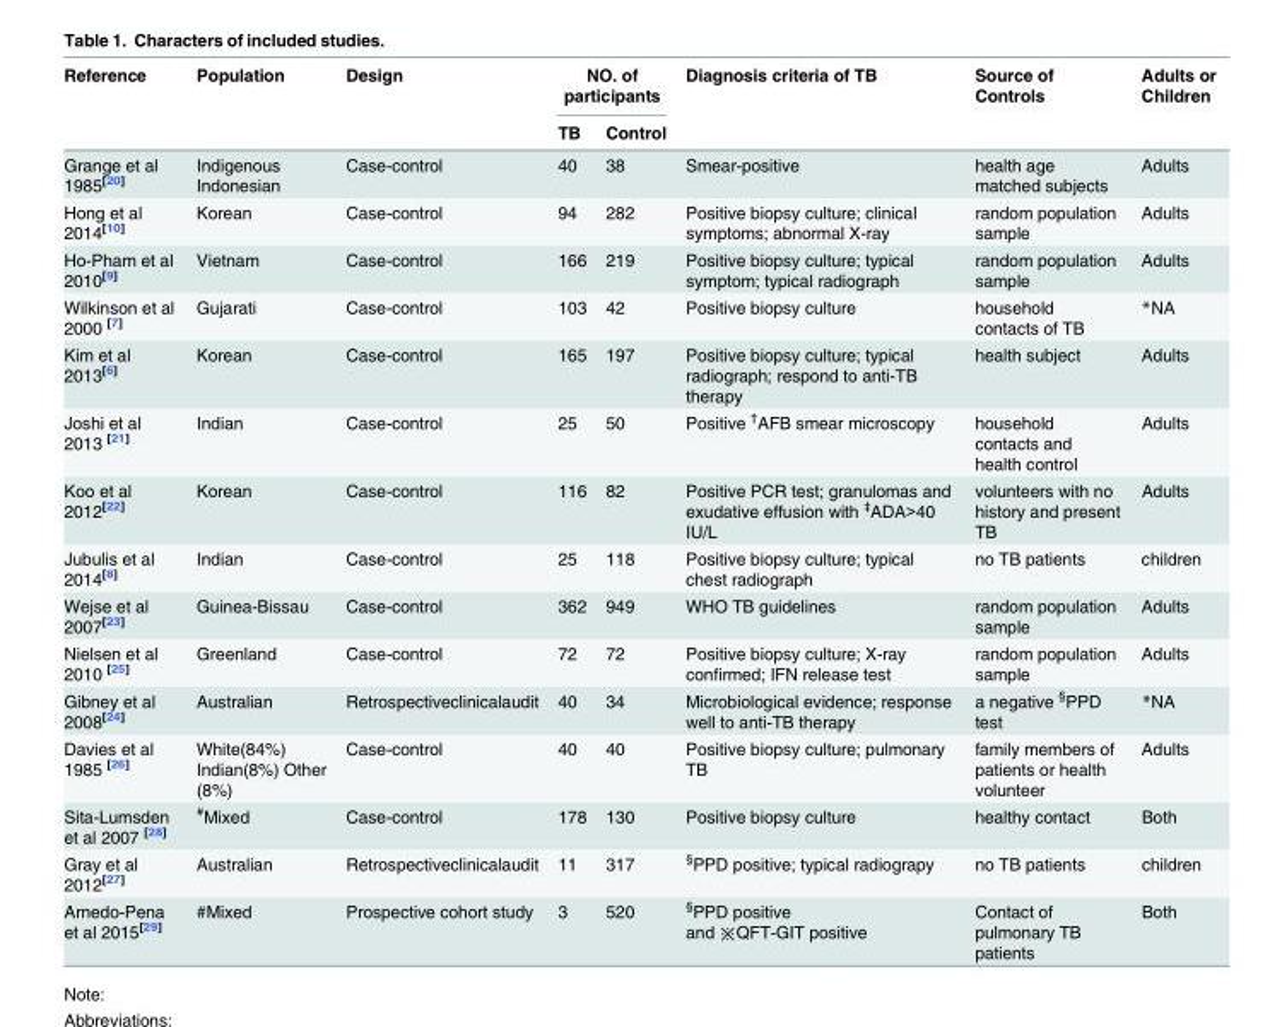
<table><thead><tr><td rowspan="2">Reference</td><td rowspan="2">Population</td><td rowspan="2">Design</td><td colspan="2">NO. of participants</td><td rowspan="2">Diagnosis criteria of TB</td><td rowspan="2">Source of Controls</td><td rowspan="2">Adults or Children</td></tr><tr><td>TB</td><td>Control</td></tr></thead><tbody><tr><td>Grange et al 1985<sup>[20]</sup></td><td>Indigenous Indonesian</td><td>Case-control</td><td>40</td><td>38</td><td>Smear-positive</td><td>health age matched subjects</td><td>Adults</td></tr><tr><td>Hong et al 2014<sup>[10]</sup></td><td>Korean</td><td>Case-control</td><td>94</td><td>282</td><td>Positive biopsy culture; clinical symptoms; abnormal X-ray</td><td>random population sample</td><td>Adults</td></tr><tr><td>Ho-Pham et al 2010<sup>[9]</sup></td><td>Vietnam</td><td>Case-control</td><td>166</td><td>219</td><td>Positive biopsy culture; typical symptom; typical radiograph</td><td>random population sample</td><td>Adults</td></tr><tr><td>Wilkinson et al 2000 <sup>[7]</sup></td><td>Gujarati</td><td>Case-control</td><td>103</td><td>42</td><td>Positive biopsy culture</td><td>household contacts of TB</td><td>*NA</td></tr><tr><td>Kim et al 2013<sup>[6]</sup></td><td>Korean</td><td>Case-control</td><td>165</td><td>197</td><td>Positive biopsy culture; typical radiograph; respond to anti-TB therapy</td><td>health subject</td><td>Adults</td></tr><tr><td>Joshi et al 2013 <sup>[21]</sup></td><td>Indian</td><td>Case-control</td><td>25</td><td>50</td><td>Positive <sup>†</sup>AFB smear microscopy</td><td>household contacts and health control</td><td>Adults</td></tr><tr><td>Koo et al 2012<sup>[22]</sup></td><td>Korean</td><td>Case-control</td><td>116</td><td>82</td><td>Positive PCR test; granulomas and exudative effusion with <sup>‡</sup>ADA&gt;40 IU/L</td><td>volunteers with no history and present TB</td><td>Adults</td></tr><tr><td>Jubulis et al 2014<sup>[8]</sup></td><td>Indian</td><td>Case-control</td><td>25</td><td>118</td><td>Positive biopsy culture; typical chest radiograph</td><td>no TB patients</td><td>children</td></tr><tr><td>Wejse et al 2007<sup>[23]</sup></td><td>Guinea-Bissau</td><td>Case-control</td><td>362</td><td>949</td><td>WHO TB guidelines</td><td>random population sample</td><td>Adults</td></tr><tr><td>Nielsen et al 2010 <sup>[25]</sup></td><td>Greenland</td><td>Case-control</td><td>72</td><td>72</td><td>Positive biopsy culture; X-ray confirmed; IFN release test</td><td>random population sample</td><td>Adults</td></tr><tr><td>Gibney et al 2008<sup>[24]</sup></td><td>Australian</td><td>Retrospectiveclinicalaudit</td><td>40</td><td>34</td><td>Microbiological evidence; response well to anti-TB therapy</td><td>a negative <sup>§</sup>PPD test</td><td>*NA</td></tr><tr><td>Davies et al 1985 <sup>[26]</sup></td><td>White(84%) Indian(8%) Other (8%)</td><td>Case-control</td><td>40</td><td>40</td><td>Positive biopsy culture; pulmonary TB</td><td>family members of patients or health volunteer</td><td>Adults</td></tr><tr><td>Sita-Lumsden et al 2007 <sup>[28]</sup></td><td><sup>#</sup>Mixed</td><td>Case-control</td><td>178</td><td>130</td><td>Positive biopsy culture</td><td>healthy contact</td><td>Both</td></tr><tr><td>Gray et al 2012<sup>[27]</sup></td><td>Australian</td><td>Retrospectiveclinicalaudit</td><td>11</td><td>317</td><td><sup>§</sup>PPD positive; typical radiograpy</td><td>no TB patients</td><td>children</td></tr><tr><td>Arnedo-Pena et al 2015<sup>[29]</sup></td><td>#Mixed</td><td>Prospective cohort study</td><td>3</td><td>520</td><td><sup>§</sup>PPD positive and ※QFT-GIT positive</td><td>Contact of pulmonary TB patients</td><td>Both</td></tr></tbody></table>